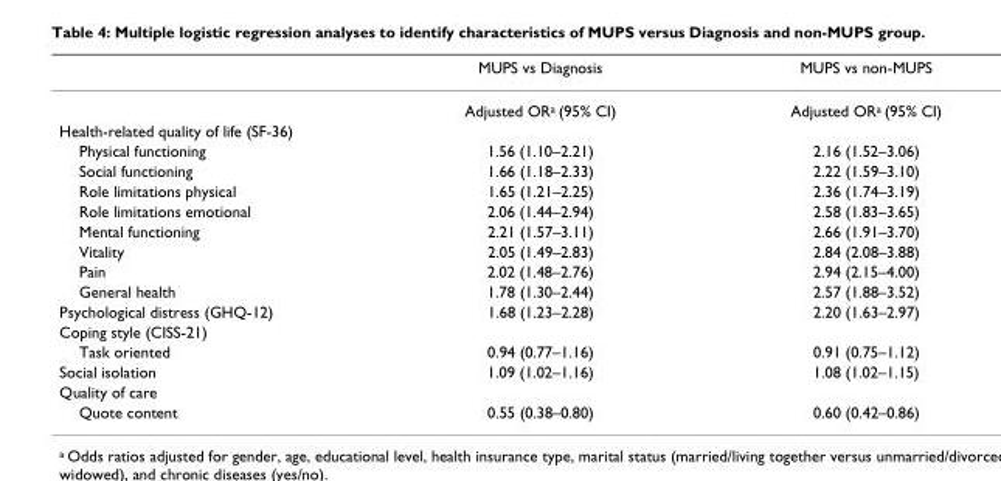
<table><thead><tr><td></td><td>MUPS vs Diagnosis</td><td>MUPS vs non-MUPS</td></tr></thead><tbody><tr><td></td><td>Adjusted OR<sup>a</sup> (95% CI)</td><td>Adjusted OR<sup>a</sup> (95% CI)</td></tr><tr><td colspan="3">Health-related quality of life (SF-36)</td></tr><tr><td>Physical functioning</td><td>1.56 (1.10–2.21)</td><td>2.16 (1.52–3.06)</td></tr><tr><td>Social functioning</td><td>1.66 (1.18–2.33)</td><td>2.22 (1.59–3.10)</td></tr><tr><td>Role limitations physical</td><td>1.65 (1.21–2.25)</td><td>2.36 (1.74–3.19)</td></tr><tr><td>Role limitations emotional</td><td>2.06 (1.44–2.94)</td><td>2.58 (1.83–3.65)</td></tr><tr><td>Mental functioning</td><td>2.21 (1.57–3.11)</td><td>2.66 (1.91–3.70)</td></tr><tr><td>Vitality</td><td>2.05 (1.49–2.83)</td><td>2.84 (2.08–3.88)</td></tr><tr><td>Pain</td><td>2.02 (1.48–2.76)</td><td>2.94 (2.15–4.00)</td></tr><tr><td>General health</td><td>1.78 (1.30–2.44)</td><td>2.57 (1.88–3.52)</td></tr><tr><td>Psychological distress (GHQ-12)</td><td>1.68 (1.23–2.28)</td><td>2.20 (1.63–2.97)</td></tr><tr><td colspan="3">Coping style (CISS-21)</td></tr><tr><td>Task oriented</td><td>0.94 (0.77–1.16)</td><td>0.91 (0.75–1.12)</td></tr><tr><td>Social isolation</td><td>1.09 (1.02–1.16)</td><td>1.08 (1.02–1.15)</td></tr><tr><td colspan="3">Quality of care</td></tr><tr><td>Quote content</td><td>0.55 (0.38–0.80)</td><td>0.60 (0.42–0.86)</td></tr></tbody></table>